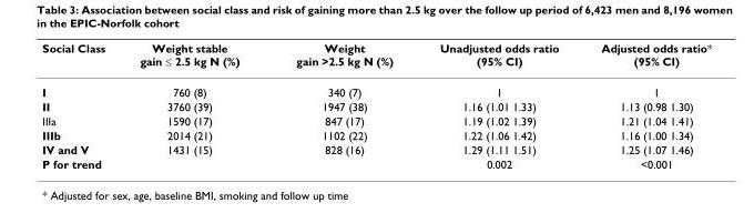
<table><thead><tr><td>Social Class</td><td>Weight stable gain ≤ 2.5 kg N (%)</td><td>Weight gain &gt;2.5 kg N (%)</td><td>Unadjusted odds ratio (95% CI)</td><td>Adjusted odds ratio* (95% CI)</td></tr></thead><tbody><tr><td>I</td><td>760 (8)</td><td>340 (7)</td><td>1</td><td>1</td></tr><tr><td>II</td><td>3760 (39)</td><td>1947 (38)</td><td>1.16 (1.01 1.33)</td><td>1.13 (0.98 1.30)</td></tr><tr><td>IIIa</td><td>1590 (17)</td><td>847 (17)</td><td>1.19 (1.02 1.39)</td><td>1.21 (1.04 1.41)</td></tr><tr><td>IIIb</td><td>2014 (21)</td><td>1102 (22)</td><td>1.22 (1.06 1.42)</td><td>1.16 (1.00 1.34)</td></tr><tr><td>IV and V</td><td>1431 (15)</td><td>828 (16)</td><td>1.29 (1.11 1.51)</td><td>1.25 (1.07 1.46)</td></tr><tr><td>P for trend</td><td></td><td></td><td>0.002</td><td>&lt;0.001</td></tr></tbody></table>